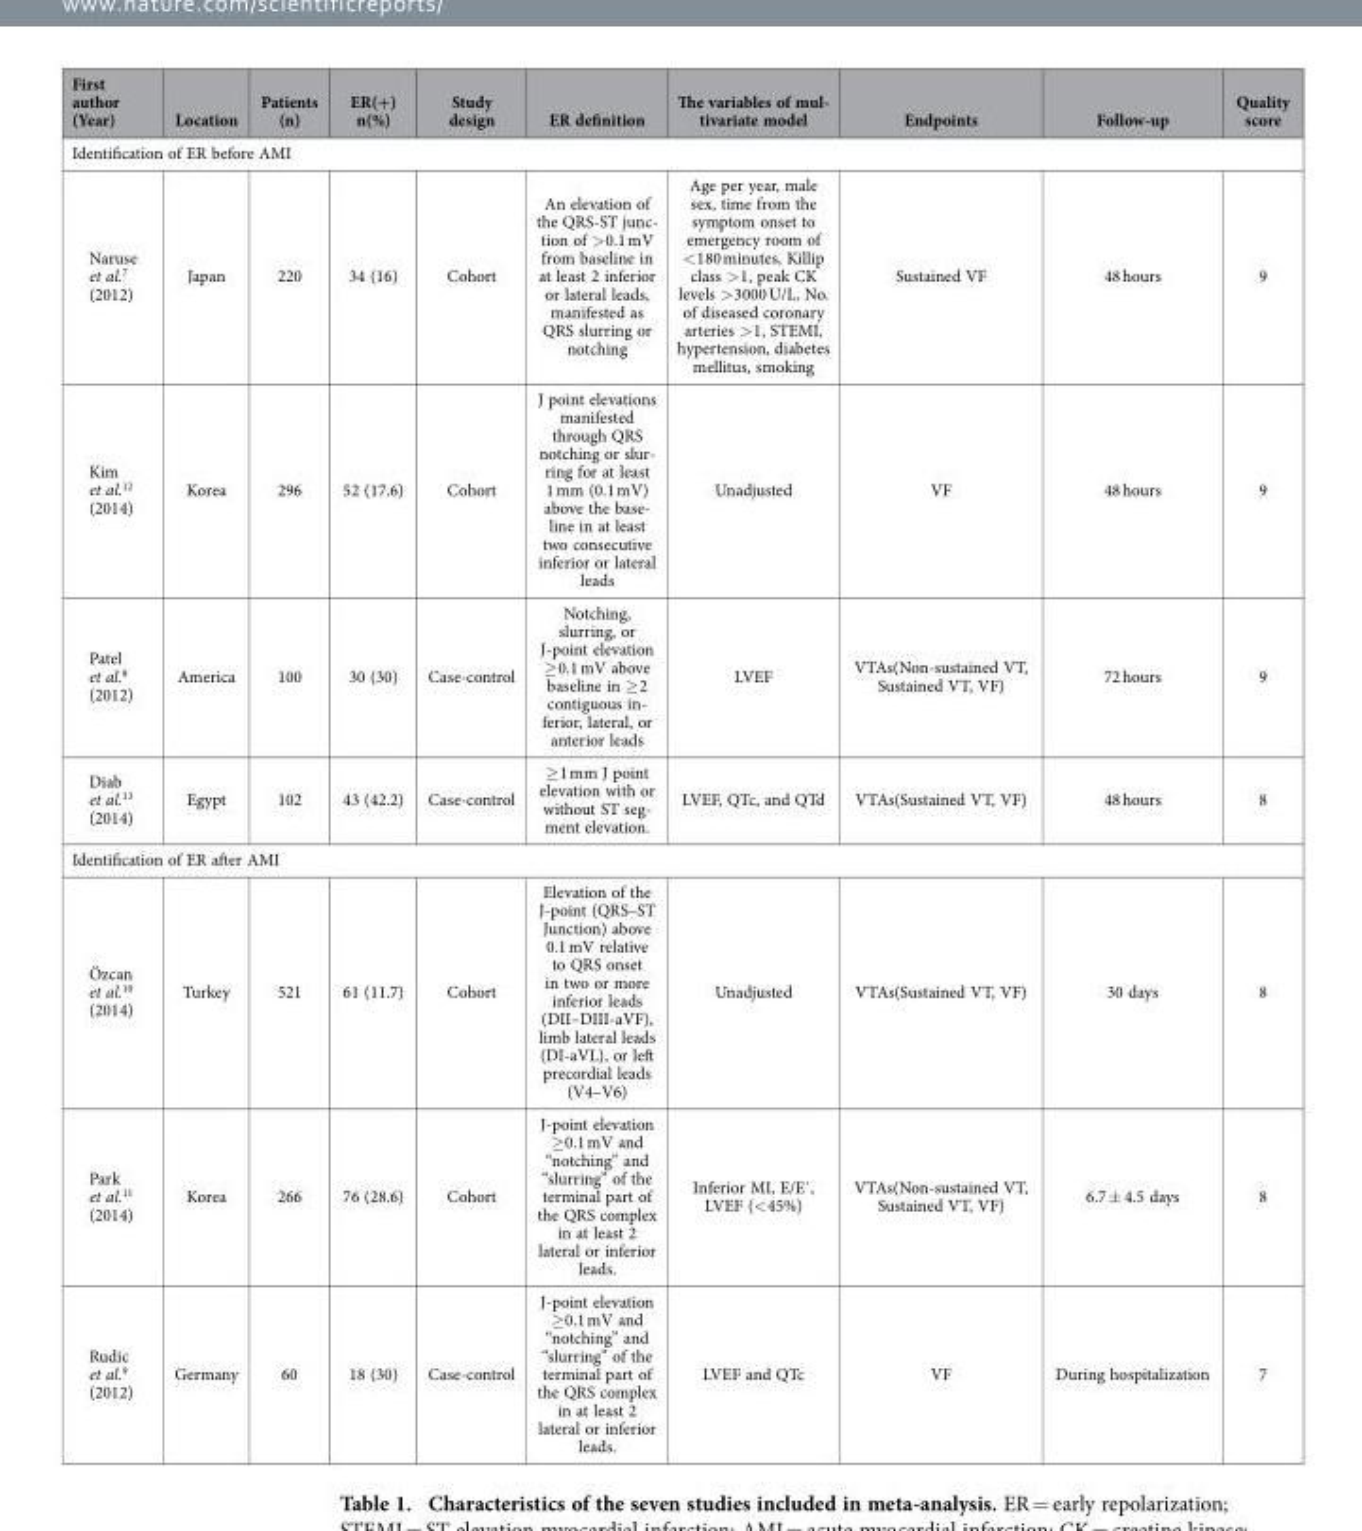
<table><thead><tr><td>First author (Year)</td><td>Location</td><td>Patients (n)</td><td>ER(+) n(%)</td><td>Study design</td><td>ER definition</td><td>The variables of mul- tivariate model</td><td>Endpoints</td><td>Follow-up</td><td>Quality score</td></tr></thead><tbody><tr><td colspan="10">Identification of ER before AMI</td></tr><tr><td>Naruse et al.<sup>7</sup> (2012)</td><td>Japan</td><td>220</td><td>34 (16)</td><td>Cohort</td><td>An elevation of the QRS-ST junc- tion of &gt; 0.1 mV from baseline in at least 2 inferior or lateral leads, manifested as QRS slurring or notching</td><td>Age per year, male sex, time from the symptom onset to emergency room of &lt; 180 minutes, Killip class &gt; 1, peak CK levels &gt; 3000 U/L, No. of diseased coronary arteries &gt; 1, STEMI, hypertension, diabetes mellitus, smoking</td><td>Sustained VF</td><td>48 hours</td><td>9</td></tr><tr><td>Kim et al.<sup>12</sup> (2014)</td><td>Korea</td><td>296</td><td>52 (17.6)</td><td>Cohort</td><td>J point elevations manifested through QRS notching or slur- ring for at least 1 mm (0.1 mV) above the base- line in at least two consecutive inferior or lateral leads</td><td>Unadjusted</td><td>VF</td><td>48 hours</td><td>9</td></tr><tr><td>Patel et al.<sup>8</sup> (2012)</td><td>America</td><td>100</td><td>30 (30)</td><td>Case-control</td><td>Notching, slurring, or J-point elevation ≥ 0.1 mV above baseline in ≥ 2 contiguous in- ferior, lateral, or anterior leads</td><td>LVEF</td><td>VTAs(Non-sustained VT, Sustained VT, VF)</td><td>72 hours</td><td>9</td></tr><tr><td>Diab et al.<sup>13</sup> (2014)</td><td>Egypt</td><td>102</td><td>43 (42.2)</td><td>Case-control</td><td>≥ 1 mm J point elevation with or without ST seg- ment elevation.</td><td>LVEF, QTc, and QTd</td><td>VTAs(Sustained VT, VF)</td><td>48 hours</td><td>8</td></tr><tr><td colspan="10">Identification of ER after AMI</td></tr><tr><td>Özcan et al.<sup>10</sup> (2014)</td><td>Turkey</td><td>521</td><td>61 (11.7)</td><td>Cohort</td><td>Elevation of the J-point (QRS–ST Junction) above 0.1 mV relative to QRS onset in two or more inferior leads (DII–DIII-aVF), limb lateral leads (DI-aVL), or left precordial leads (V4–V6)</td><td>Unadjusted</td><td>VTAs(Sustained VT, VF)</td><td>30 days</td><td>8</td></tr><tr><td>Park et al.<sup>11</sup> (2014)</td><td>Korea</td><td>266</td><td>76 (28.6)</td><td>Cohort</td><td>J-point elevation ≥ 0.1 mV and “notching” and “slurring” of the terminal part of the QRS complex in at least 2 lateral or inferior leads.</td><td>Inferior MI, E/E′ , LVEF (&lt; 45%)</td><td>VTAs(Non-sustained VT, Sustained VT, VF)</td><td>6.7 ± 4.5 days</td><td>8</td></tr><tr><td>Rudic et al.<sup>9</sup> (2012)</td><td>Germany</td><td>60</td><td>18 (30)</td><td>Case-control</td><td>J-point elevation ≥ 0.1 mV and “notching” and “slurring” of the terminal part of the QRS complex in at least 2 lateral or inferior leads.</td><td>LVEF and QTc</td><td>VF</td><td>During hospitalization</td><td>7</td></tr></tbody></table>